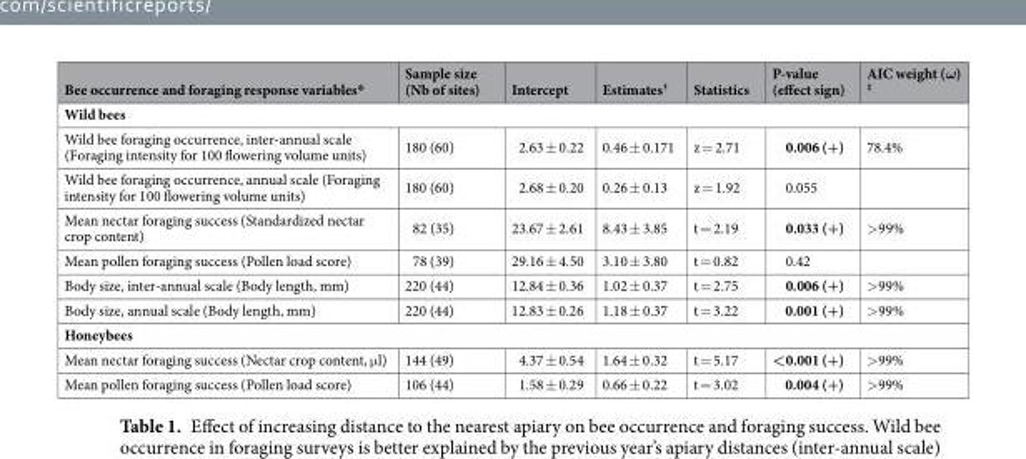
<table><thead><tr><td>Bee occurrence and foraging response variables*</td><td>Sample size (Nb of sites)</td><td>Intercept</td><td>Estimates<sup>†</sup></td><td>Statistics</td><td>P-value (effect sign)</td><td>AIC weight (ω) <sup>‡</sup></td></tr></thead><tbody><tr><td colspan="7">Wild bees</td></tr><tr><td>Wild bee foraging occurrence, inter-annual scale (Foraging intensity for 100 flowering volume units)</td><td>180 (60)</td><td>2.63 ± 0.22</td><td>0.46 ± 0.171</td><td>z = 2.71</td><td>0.006 (+)</td><td>78.4%</td></tr><tr><td>Wild bee foraging occurrence, annual scale (Foraging intensity for 100 flowering volume units)</td><td>180 (60)</td><td>2.68 ± 0.20</td><td>0.26 ± 0.13</td><td>z = 1.92</td><td>0.055</td><td></td></tr><tr><td>Mean nectar foraging success (Standardized nectar crop content)</td><td>82 (35)</td><td>23.67 ± 2.61</td><td>8.43 ± 3.85</td><td>t = 2.19</td><td>0.033 (+)</td><td>&gt;99%</td></tr><tr><td>Mean pollen foraging success (Pollen load score)</td><td>78 (39)</td><td>29.16 ± 4.50</td><td>3.10 ± 3.80</td><td>t = 0.82</td><td>0.42</td><td></td></tr><tr><td>Body size, inter-annual scale (Body length, mm)</td><td>220 (44)</td><td>12.84 ± 0.36</td><td>1.02 ± 0.37</td><td>t = 2.75</td><td>0.006 (+)</td><td>&gt;99%</td></tr><tr><td>Body size, annual scale (Body length, mm)</td><td>220 (44)</td><td>12.83 ± 0.26</td><td>1.18 ± 0.37</td><td>t = 3.22</td><td>0.001 (+)</td><td>&gt;99%</td></tr><tr><td colspan="7">Honeybees</td></tr><tr><td>Mean nectar foraging success (Nectar crop content, μl)</td><td>144 (49)</td><td>4.37 ± 0.54</td><td>1.64 ± 0.32</td><td>t = 5.17</td><td>&lt;0.001 (+)</td><td>&gt;99%</td></tr><tr><td>Mean pollen foraging success (Pollen load score)</td><td>106 (44)</td><td>1.58 ± 0.29</td><td>0.66 ± 0.22</td><td>t = 3.02</td><td>0.004 (+)</td><td>&gt;99%</td></tr></tbody></table>